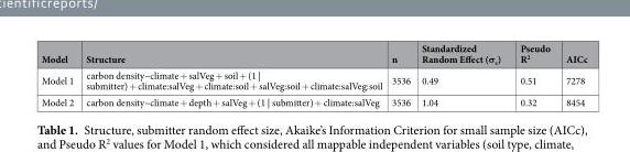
<table><thead><tr><td>Model</td><td>Structure</td><td>n</td><td>Standardized Random Effect (σ<sub>c</sub>)</td><td>Pseudo R<sup>2</sup></td><td>AICc</td></tr></thead><tbody><tr><td>Model 1</td><td>carbon density~climate + salVeg + soil + (1 | submitter) + climate:salVeg + climate:soil + salVeg:soil + climate:salVeg:soil</td><td>3536</td><td>0.49</td><td>0.51</td><td>7278</td></tr><tr><td>Model 2</td><td>carbon density~climate + depth + salVeg + (1 | submitter) + climate:salVeg</td><td>3536</td><td>1.04</td><td>0.32</td><td>8454</td></tr></tbody></table>